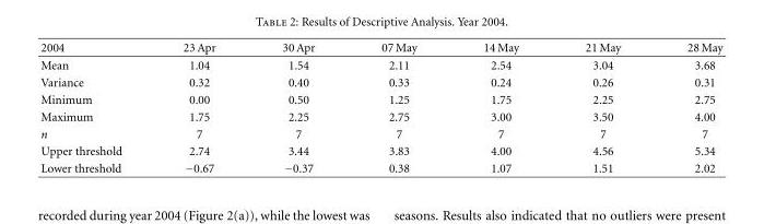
<table><thead><tr><td>2004</td><td>23 Apr</td><td>30 Apr</td><td>07 May</td><td>14 May</td><td>21 May</td><td>28 May</td></tr></thead><tbody><tr><td>Mean</td><td>1.04</td><td>1.54</td><td>2.11</td><td>2.54</td><td>3.04</td><td>3.68</td></tr><tr><td>Variance</td><td>0.32</td><td>0.40</td><td>0.33</td><td>0.24</td><td>0.26</td><td>0.31</td></tr><tr><td>Minimum</td><td>0.00</td><td>0.50</td><td>1.25</td><td>1.75</td><td>2.25</td><td>2.75</td></tr><tr><td>Maximum</td><td>1.75</td><td>2.25</td><td>2.75</td><td>3.00</td><td>3.50</td><td>4.00</td></tr><tr><td>n</td><td>7</td><td>7</td><td>7</td><td>7</td><td>7</td><td>7</td></tr><tr><td>Upper threshold</td><td>2.74</td><td>3.44</td><td>3.83</td><td>4.00</td><td>4.56</td><td>5.34</td></tr><tr><td>Lower threshold</td><td>−0.67</td><td>−0.37</td><td>0.38</td><td>1.07</td><td>1.51</td><td>2.02</td></tr></tbody></table>